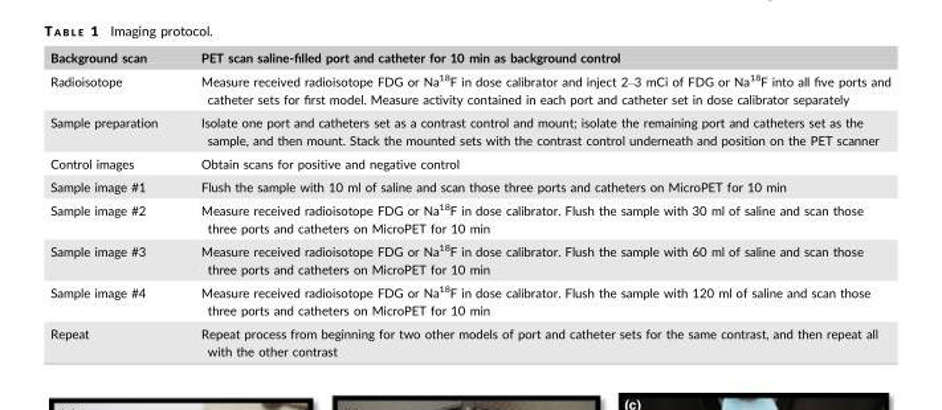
<table><thead><tr><td>Background scan</td><td>PET scan saline-filled port and catheter for 10 min as background control</td></tr></thead><tbody><tr><td>Radioisotope</td><td>Measure received radioisotope FDG or Na<sup>18</sup>F in dose calibrator and inject 2–3 mCi of FDG or Na<sup>18</sup>F into all five ports and catheter sets for first model. Measure activity contained in each port and catheter set in dose calibrator separately</td></tr><tr><td>Sample preparation</td><td>Isolate one port and catheters set as a contrast control and mount; isolate the remaining port and catheters set as the sample, and then mount. Stack the mounted sets with the contrast control underneath and position on the PET scanner</td></tr><tr><td>Control images</td><td>Obtain scans for positive and negative control</td></tr><tr><td>Sample image #1</td><td>Flush the sample with 10 ml of saline and scan those three ports and catheters on MicroPET for 10 min</td></tr><tr><td>Sample image #2</td><td>Measure received radioisotope FDG or Na<sup>18</sup>F in dose calibrator. Flush the sample with 30 ml of saline and scan those three ports and catheters on MicroPET for 10 min</td></tr><tr><td>Sample image #3</td><td>Measure received radioisotope FDG or Na<sup>18</sup>F in dose calibrator. Flush the sample with 60 ml of saline and scan those three ports and catheters on MicroPET for 10 min</td></tr><tr><td>Sample image #4</td><td>Measure received radioisotope FDG or Na<sup>18</sup>F in dose calibrator. Flush the sample with 120 ml of saline and scan those three ports and catheters on MicroPET for 10 min</td></tr><tr><td>Repeat</td><td>Repeat process from beginning for two other models of port and catheter sets for the same contrast, and then repeat all with the other contrast</td></tr></tbody></table>